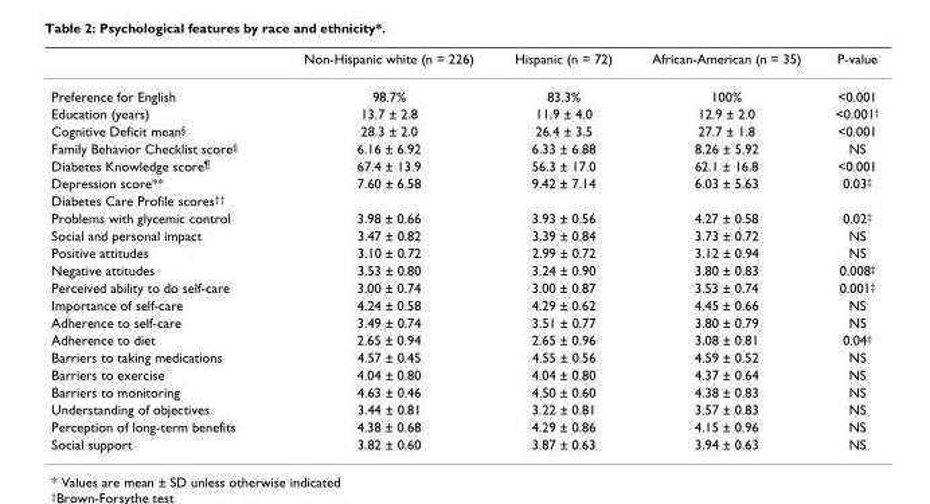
<table><thead><tr><td></td><td>Non-Hispanic white (n = 226)</td><td>Hispanic (n = 72)</td><td>African-American (n = 35)</td><td>P-value</td></tr></thead><tbody><tr><td>Preference for English</td><td>98.7%</td><td>83.3%</td><td>100%</td><td>&lt;0.001</td></tr><tr><td>Education (years)</td><td>13.7 ± 2.8</td><td>11.9 ± 4.0</td><td>12.9 ± 2.0</td><td>&lt;0.001†</td></tr><tr><td>Cognitive Deficit mean§</td><td>28.3 ± 2.0</td><td>26.4 ± 3.5</td><td>27.7 ± 1.8</td><td>&lt;0.001</td></tr><tr><td>Family Behavior Checklist score||</td><td>6.16 ± 6.92</td><td>6.33 ± 6.88</td><td>8.26 ± 5.92</td><td>NS</td></tr><tr><td>Diabetes Knowledge score¶</td><td>67.4 ± 13.9</td><td>56.3 ± 17.0</td><td>62.1 ± 16.8</td><td>&lt;0.001</td></tr><tr><td>Depression score**</td><td>7.60 ± 6.58</td><td>9.42 ± 7.14</td><td>6.03 ± 5.63</td><td>0.03‡</td></tr><tr><td colspan="5">Diabetes Care Profile scores††</td></tr><tr><td>Problems with glycemic control</td><td>3.98 ± 0.66</td><td>3.93 ± 0.56</td><td>4.27 ± 0.58</td><td>0.02‡</td></tr><tr><td>Social and personal impact</td><td>3.47 ± 0.82</td><td>3.39 ± 0.84</td><td>3.73 ± 0.72</td><td>NS</td></tr><tr><td>Positive attitudes</td><td>3.10 ± 0.72</td><td>2.99 ± 0.72</td><td>3.12 ± 0.94</td><td>NS</td></tr><tr><td>Negative attitudes</td><td>3.53 ± 0.80</td><td>3.24 ± 0.90</td><td>3.80 ± 0.83</td><td>0.008‡</td></tr><tr><td>Perceived ability to do self-care</td><td>3.00 ± 0.74</td><td>3.00 ± 0.87</td><td>3.53 ± 0.74</td><td>0.001‡</td></tr><tr><td>Importance of self-care</td><td>4.24 ± 0.58</td><td>4.29 ± 0.62</td><td>4.45 ± 0.66</td><td>NS</td></tr><tr><td>Adherence to self-care</td><td>3.49 ± 0.74</td><td>3.51 ± 0.77</td><td>3.80 ± 0.79</td><td>NS</td></tr><tr><td>Adherence to diet</td><td>2.65 ± 0.94</td><td>2.65 ± 0.96</td><td>3.08 ± 0.81</td><td>0.04‡</td></tr><tr><td>Barriers to taking medications</td><td>4.57 ± 0.45</td><td>4.55 ± 0.56</td><td>4.59 ± 0.52</td><td>NS</td></tr><tr><td>Barriers to exercise</td><td>4.04 ± 0.80</td><td>4.04 ± 0.80</td><td>4.37 ± 0.64</td><td>NS</td></tr><tr><td>Barriers to monitoring</td><td>4.63 ± 0.46</td><td>4.50 ± 0.60</td><td>4.38 ± 0.83</td><td>NS</td></tr><tr><td>Understanding of objectives</td><td>3.44 ± 0.81</td><td>3.22 ± 0.81</td><td>3.57 ± 0.83</td><td>NS</td></tr><tr><td>Perception of long-term benefits</td><td>4.38 ± 0.68</td><td>4.29 ± 0.86</td><td>4.15 ± 0.96</td><td>NS</td></tr><tr><td>Social support</td><td>3.82 ± 0.60</td><td>3.87 ± 0.63</td><td>3.94 ± 0.63</td><td>NS</td></tr></tbody></table>